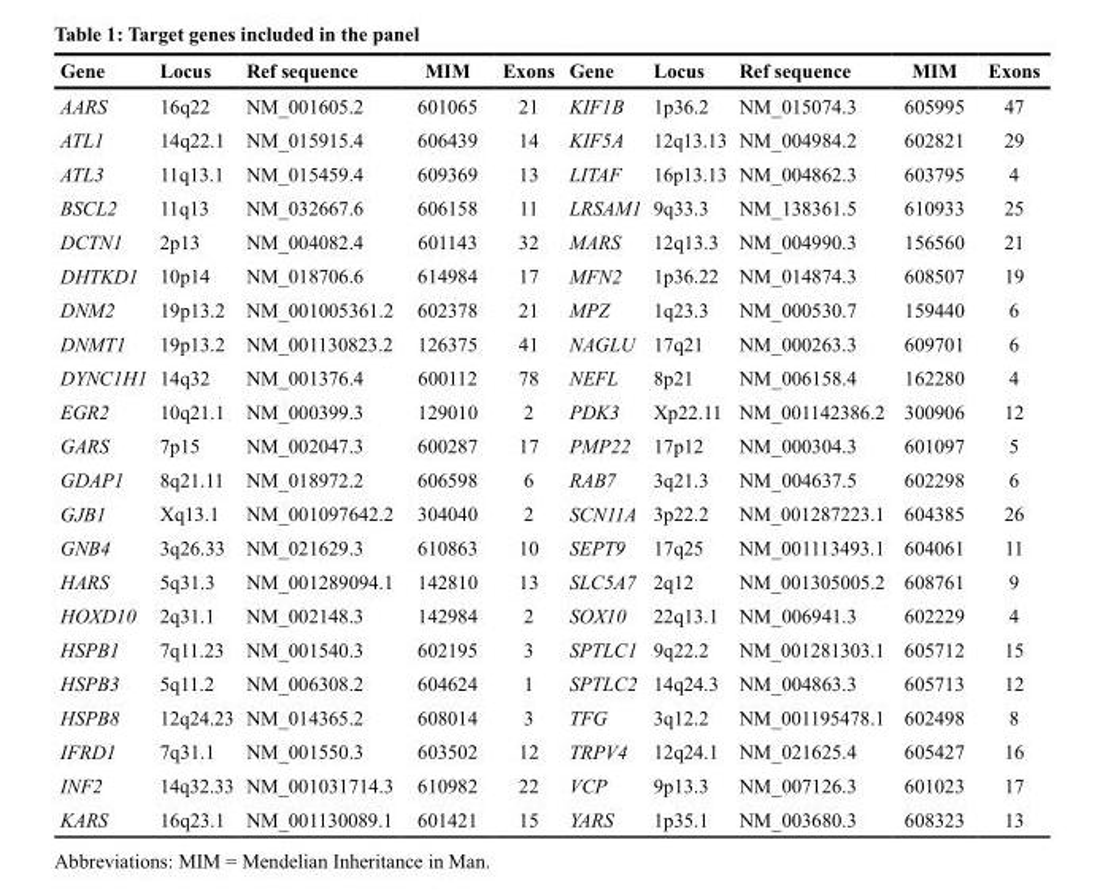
<table><thead><tr><td>Gene</td><td>Locus</td><td>Ref sequence</td><td>MIM</td><td>Exons</td><td>Gene</td><td>Locus</td><td>Ref sequence</td><td>MIM</td><td>Exons</td></tr></thead><tbody><tr><td>AARS</td><td>16q22</td><td>NM_001605.2</td><td>601065</td><td>21</td><td>KIF1B</td><td>1p36.2</td><td>NM_015074.3</td><td>605995</td><td>47</td></tr><tr><td>ATL1</td><td>14q22.1</td><td>NM_015915.4</td><td>606439</td><td>14</td><td>KIF5A</td><td>12q13.13</td><td>NM_004984.2</td><td>602821</td><td>29</td></tr><tr><td>ATL3</td><td>11q13.1</td><td>NM_015459.4</td><td>609369</td><td>13</td><td>LITAF</td><td>16p13.13</td><td>NM_004862.3</td><td>603795</td><td>4</td></tr><tr><td>BSCL2</td><td>11q13</td><td>NM_032667.6</td><td>606158</td><td>11</td><td>LRSAM1</td><td>9q33.3</td><td>NM_138361.5</td><td>610933</td><td>25</td></tr><tr><td>DCTN1</td><td>2p13</td><td>NM_004082.4</td><td>601143</td><td>32</td><td>MARS</td><td>12q13.3</td><td>NM_004990.3</td><td>156560</td><td>21</td></tr><tr><td>DHTKD1</td><td>10p14</td><td>NM_018706.6</td><td>614984</td><td>17</td><td>MFN2</td><td>1p36.22</td><td>NM_014874.3</td><td>608507</td><td>19</td></tr><tr><td>DNM2</td><td>19p13.2</td><td>NM_001005361.2</td><td>602378</td><td>21</td><td>MPZ</td><td>1q23.3</td><td>NM_000530.7</td><td>159440</td><td>6</td></tr><tr><td>DNMT1</td><td>19p13.2</td><td>NM_001130823.2</td><td>126375</td><td>41</td><td>NAGLU</td><td>17q21</td><td>NM_000263.3</td><td>609701</td><td>6</td></tr><tr><td>DYNC1H1</td><td>14q32</td><td>NM_001376.4</td><td>600112</td><td>78</td><td>NEFL</td><td>8p21</td><td>NM_006158.4</td><td>162280</td><td>4</td></tr><tr><td>EGR2</td><td>10q21.1</td><td>NM_000399.3</td><td>129010</td><td>2</td><td>PDK3</td><td>Xp22.11</td><td>NM_001142386.2</td><td>300906</td><td>12</td></tr><tr><td>GARS</td><td>7p15</td><td>NM_002047.3</td><td>600287</td><td>17</td><td>PMP22</td><td>17p12</td><td>NM_000304.3</td><td>601097</td><td>5</td></tr><tr><td>GDAP1</td><td>8q21.11</td><td>NM_018972.2</td><td>606598</td><td>6</td><td>RAB7</td><td>3q21.3</td><td>NM_004637.5</td><td>602298</td><td>6</td></tr><tr><td>GJB1</td><td>Xq13.1</td><td>NM_001097642.2</td><td>304040</td><td>2</td><td>SCN11A</td><td>3p22.2</td><td>NM_001287223.1</td><td>604385</td><td>26</td></tr><tr><td>GNB4</td><td>3q26.33</td><td>NM_021629.3</td><td>610863</td><td>10</td><td>SEPT9</td><td>17q25</td><td>NM_001113493.1</td><td>604061</td><td>11</td></tr><tr><td>HARS</td><td>5q31.3</td><td>NM_001289094.1</td><td>142810</td><td>13</td><td>SLC5A7</td><td>2q12</td><td>NM_001305005.2</td><td>608761</td><td>9</td></tr><tr><td>HOXD10</td><td>2q31.1</td><td>NM_002148.3</td><td>142984</td><td>2</td><td>SOX10</td><td>22q13.1</td><td>NM_006941.3</td><td>602229</td><td>4</td></tr><tr><td>HSPB1</td><td>7q11.23</td><td>NM_001540.3</td><td>602195</td><td>3</td><td>SPTLC1</td><td>9q22.2</td><td>NM_001281303.1</td><td>605712</td><td>15</td></tr><tr><td>HSPB3</td><td>5q11.2</td><td>NM_006308.2</td><td>604624</td><td>1</td><td>SPTLC2</td><td>14q24.3</td><td>NM_004863.3</td><td>605713</td><td>12</td></tr><tr><td>HSPB8</td><td>12q24.23</td><td>NM_014365.2</td><td>608014</td><td>3</td><td>TFG</td><td>3q12.2</td><td>NM_001195478.1</td><td>602498</td><td>8</td></tr><tr><td>IFRD1</td><td>7q31.1</td><td>NM_001550.3</td><td>603502</td><td>12</td><td>TRPV4</td><td>12q24.1</td><td>NM_021625.4</td><td>605427</td><td>16</td></tr><tr><td>INF2</td><td>14q32.33</td><td>NM_001031714.3</td><td>610982</td><td>22</td><td>VCP</td><td>9p13.3</td><td>NM_007126.3</td><td>601023</td><td>17</td></tr><tr><td>KARS</td><td>16q23.1</td><td>NM_001130089.1</td><td>601421</td><td>15</td><td>YARS</td><td>1p35.1</td><td>NM_003680.3</td><td>608323</td><td>13</td></tr></tbody></table>